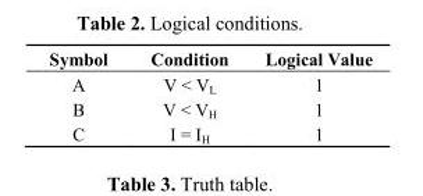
<table><thead><tr><td>Symbol</td><td>Condition</td><td>Logical Value</td></tr></thead><tbody><tr><td>A</td><td>V &lt; V<sub>L</sub></td><td>1</td></tr><tr><td>B</td><td>V &lt; V<sub>H</sub></td><td>1</td></tr><tr><td>C</td><td>I = I<sub>H</sub></td><td>1</td></tr></tbody></table>